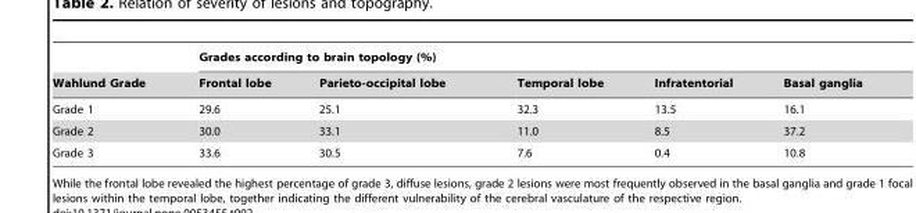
<table><thead><tr><td rowspan="2">Wahlund Grade</td><td colspan="5">Grades according to brain topology (%)</td></tr><tr><td>Frontal lobe</td><td>Parieto-occipital lobe</td><td>Temporal lobe</td><td>Infratentorial</td><td>Basal ganglia</td></tr></thead><tbody><tr><td>Grade 1</td><td>29.6</td><td>25.1</td><td>32.3</td><td>13.5</td><td>16.1</td></tr><tr><td>Grade 2</td><td>30.0</td><td>33.1</td><td>11.0</td><td>8.5</td><td>37.2</td></tr><tr><td>Grade 3</td><td>33.6</td><td>30.5</td><td>7.6</td><td>0.4</td><td>10.8</td></tr></tbody></table>